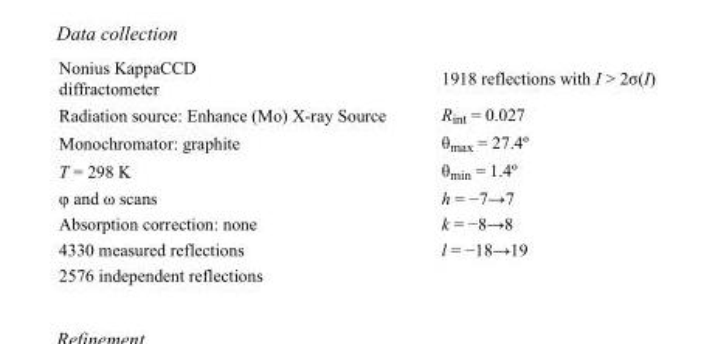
<table><tbody><tr><td>Nonius KappaCCD diffractometer</td><td>1918 reflections with I &gt; 2σ(I)</td></tr><tr><td>Radiation source: Enhance (Mo) X-ray Source</td><td>R<sub>int</sub> = 0.027</td></tr><tr><td>Monochromator: graphite</td><td>θ<sub>max</sub> = 27.4º</td></tr><tr><td>T = 298 K</td><td>θ<sub>min</sub> = 1.4º</td></tr><tr><td>φ and ω scans</td><td>h = −7→7</td></tr><tr><td>Absorption correction: none</td><td>k = −8→8</td></tr><tr><td>4330 measured reflections</td><td>l = −18→19</td></tr><tr><td>2576 independent reflections</td><td></td></tr></tbody></table>